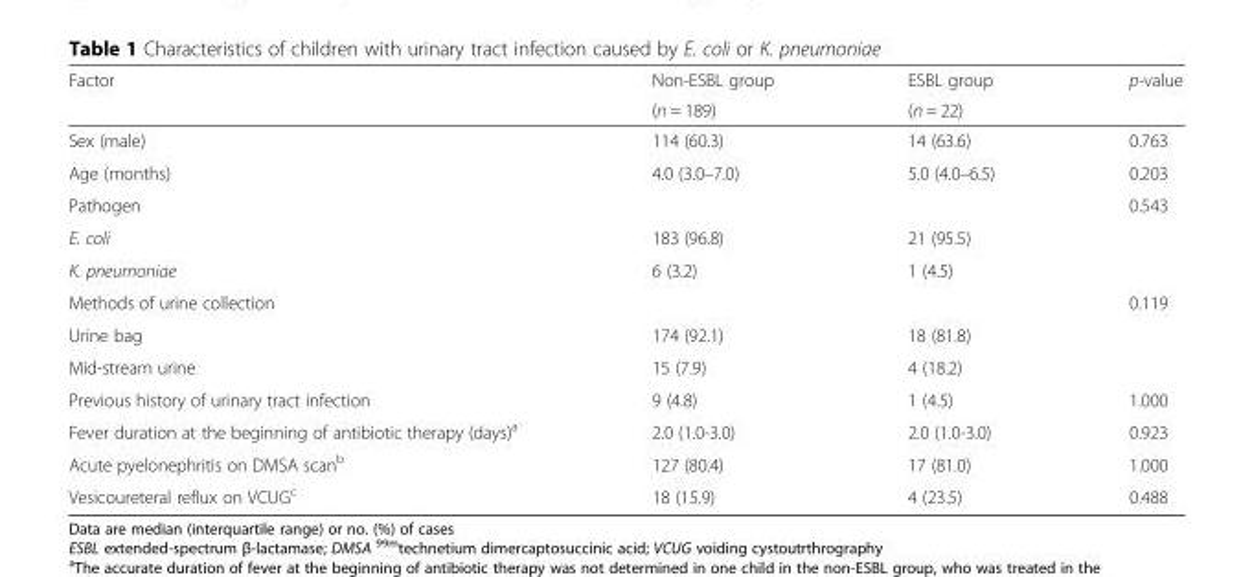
<table><thead><tr><td rowspan="2">Factor</td><td rowspan="2">Non-ESBL group (n = 189)</td><td rowspan="2">ESBL group (n = 22)</td><td rowspan="2">p-value</td></tr><tr></tr></thead><tbody><tr><td>Sex (male)</td><td>114 (60.3)</td><td>14 (63.6)</td><td>0.763</td></tr><tr><td>Age (months)</td><td>4.0 (3.0–7.0)</td><td>5.0 (4.0–6.5)</td><td>0.203</td></tr><tr><td>Pathogen</td><td></td><td></td><td>0.543</td></tr><tr><td>E. coli</td><td>183 (96.8)</td><td>21 (95.5)</td><td rowspan="2"></td></tr><tr><td>K. pneumoniae</td><td>6 (3.2)</td><td>1 (4.5)</td></tr><tr><td>Methods of urine collection</td><td></td><td></td><td>0.119</td></tr><tr><td>Urine bag</td><td>174 (92.1)</td><td>18 (81.8)</td><td rowspan="2"></td></tr><tr><td>Mid-stream urine</td><td>15 (7.9)</td><td>4 (18.2)</td></tr><tr><td>Previous history of urinary tract infection</td><td>9 (4.8)</td><td>1 (4.5)</td><td>1.000</td></tr><tr><td>Fever duration at the beginning of antibiotic therapy (days)<sup>a</sup></td><td>2.0 (1.0-3.0)</td><td>2.0 (1.0-3.0)</td><td>0.923</td></tr><tr><td>Acute pyelonephritis on DMSA scan<sup>b</sup></td><td>127 (80.4)</td><td>17 (81.0)</td><td>1.000</td></tr><tr><td>Vesicoureteral reflux on VCUG<sup>c</sup></td><td>18 (15.9)</td><td>4 (23.5)</td><td>0.488</td></tr></tbody></table>